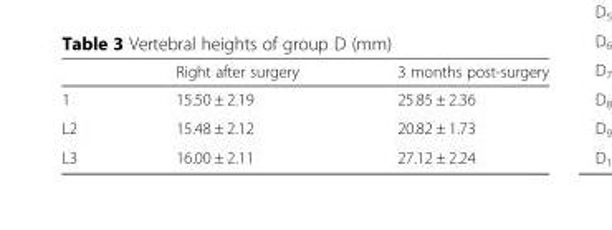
<table><thead><tr><td></td><td>Right after surgery</td><td>3 months post-surgery</td></tr></thead><tbody><tr><td>1</td><td>15.50 ± 2.19</td><td>25.85 ± 2.36</td></tr><tr><td>L2</td><td>15.48 ± 2.12</td><td>20.82 ± 1.73</td></tr><tr><td>L3</td><td>16.00 ± 2.11</td><td>27.12 ± 2.24</td></tr></tbody></table>